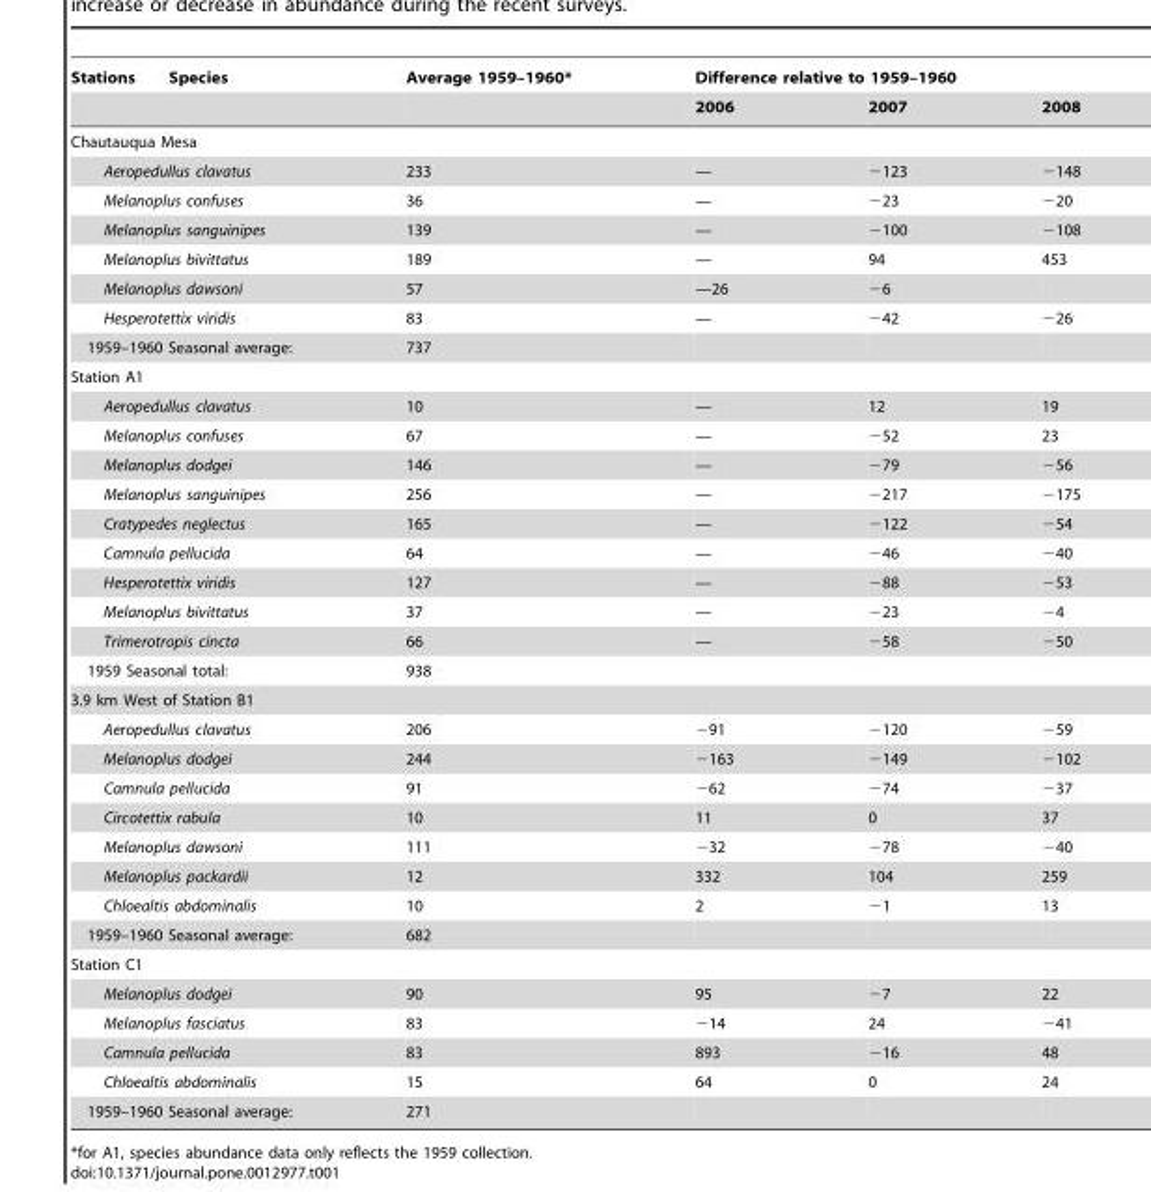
<table><thead><tr><td rowspan="2">Stations Species</td><td rowspan="2">Average 1959–1960*</td><td colspan="3">Difference relative to 1959–1960</td></tr><tr><td>2006</td><td>2007</td><td>2008</td></tr></thead><tbody><tr><td colspan="5">Chautauqua Mesa</td></tr><tr><td>Aeropedullus clavatus</td><td>233</td><td>—</td><td>−123</td><td>−148</td></tr><tr><td>Melanoplus confuses</td><td>36</td><td>—</td><td>−23</td><td>−20</td></tr><tr><td>Melanoplus sanguinipes</td><td>139</td><td>—</td><td>−100</td><td>−108</td></tr><tr><td>Melanoplus bivittatus</td><td>189</td><td>—</td><td>94</td><td>453</td></tr><tr><td>Melanoplus dawsoni</td><td>57</td><td>—26</td><td>−6</td><td></td></tr><tr><td>Hesperotettix viridis</td><td>83</td><td>—</td><td>−42</td><td>−26</td></tr><tr><td>1959–1960 Seasonal average:</td><td>737</td><td></td><td></td><td></td></tr><tr><td colspan="5">Station A1</td></tr><tr><td>Aeropedullus clavatus</td><td>10</td><td>—</td><td>12</td><td>19</td></tr><tr><td>Melanoplus confuses</td><td>67</td><td>—</td><td>−52</td><td>23</td></tr><tr><td>Melanoplus dodgei</td><td>146</td><td>—</td><td>−79</td><td>−56</td></tr><tr><td>Melanoplus sanguinipes</td><td>256</td><td>—</td><td>−217</td><td>−175</td></tr><tr><td>Cratypedes neglectus</td><td>165</td><td>—</td><td>−122</td><td>−54</td></tr><tr><td>Camnula pellucida</td><td>64</td><td>—</td><td>−46</td><td>−40</td></tr><tr><td>Hesperotettix viridis</td><td>127</td><td>—</td><td>−88</td><td>−53</td></tr><tr><td>Melanoplus bivittatus</td><td>37</td><td>—</td><td>−23</td><td>−4</td></tr><tr><td>Trimerotropis cincta</td><td>66</td><td>—</td><td>−58</td><td>−50</td></tr><tr><td>1959 Seasonal total:</td><td>938</td><td></td><td></td><td></td></tr><tr><td colspan="5">3.9 km West of Station B1</td></tr><tr><td>Aeropedullus clavatus</td><td>206</td><td>−91</td><td>−120</td><td>−59</td></tr><tr><td>Melanoplus dodgei</td><td>244</td><td>−163</td><td>−149</td><td>−102</td></tr><tr><td>Camnula pellucida</td><td>91</td><td>−62</td><td>−74</td><td>−37</td></tr><tr><td>Circotettix rabula</td><td>10</td><td>11</td><td>0</td><td>37</td></tr><tr><td>Melanoplus dawsoni</td><td>111</td><td>−32</td><td>−78</td><td>−40</td></tr><tr><td>Melanoplus packardii</td><td>12</td><td>332</td><td>104</td><td>259</td></tr><tr><td>Chloealtis abdominalis</td><td>10</td><td>2</td><td>−1</td><td>13</td></tr><tr><td>1959–1960 Seasonal average:</td><td>682</td><td></td><td></td><td></td></tr><tr><td colspan="5">Station C1</td></tr><tr><td>Melanoplus dodgei</td><td>90</td><td>95</td><td>−7</td><td>22</td></tr><tr><td>Melanoplus fasciatus</td><td>83</td><td>−14</td><td>24</td><td>−41</td></tr><tr><td>Camnula pellucida</td><td>83</td><td>893</td><td>−16</td><td>48</td></tr><tr><td>Chloealtis abdominalis</td><td>15</td><td>64</td><td>0</td><td>24</td></tr><tr><td>1959–1960 Seasonal average:</td><td>271</td><td></td><td></td><td></td></tr></tbody></table>